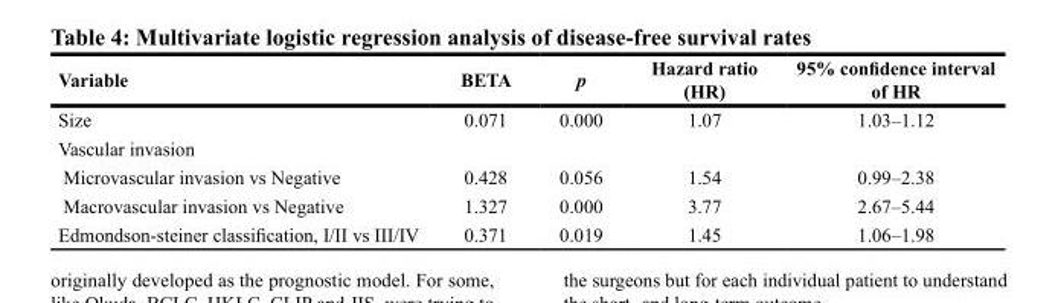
<table><thead><tr><td>Variable</td><td>BETA</td><td>p</td><td>Hazard ratio (HR)</td><td>95% confidence interval of HR</td></tr></thead><tbody><tr><td>Size</td><td>0.071</td><td>0.000</td><td>1.07</td><td>1.03–1.12</td></tr><tr><td colspan="5">Vascular invasion</td></tr><tr><td>Microvascular invasion vs Negative</td><td>0.428</td><td>0.056</td><td>1.54</td><td>0.99–2.38</td></tr><tr><td>Macrovascular invasion vs Negative</td><td>1.327</td><td>0.000</td><td>3.77</td><td>2.67–5.44</td></tr><tr><td>Edmondson-steiner classification, I/II vs III/IV</td><td>0.371</td><td>0.019</td><td>1.45</td><td>1.06–1.98</td></tr></tbody></table>